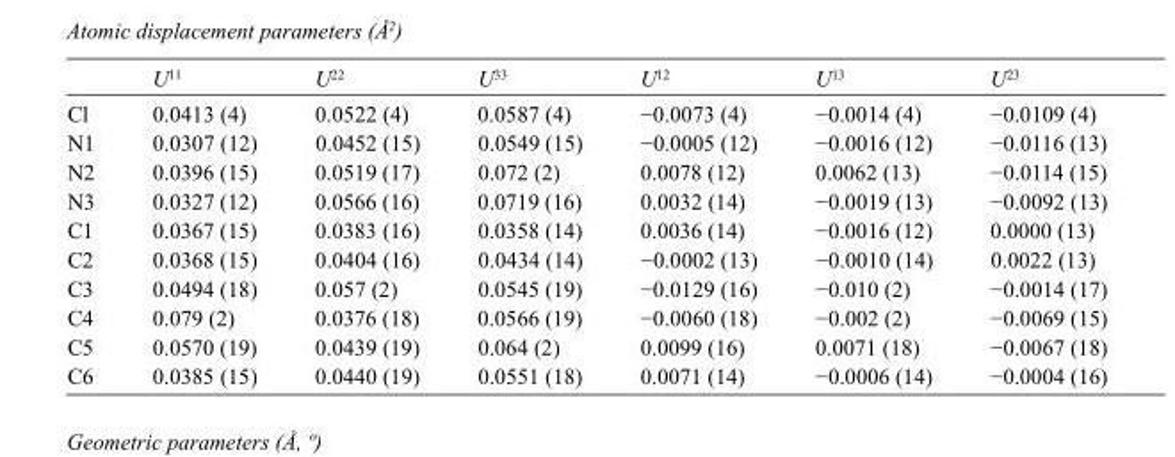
<table><thead><tr><td></td><td>U<sup>11</sup></td><td>U<sup>22</sup></td><td>U<sup>33</sup></td><td>U<sup>12</sup></td><td>U<sup>13</sup></td><td>U<sup>23</sup></td></tr></thead><tbody><tr><td>Cl</td><td>0.0413 (4)</td><td>0.0522 (4)</td><td>0.0587 (4)</td><td>−0.0073 (4)</td><td>−0.0014 (4)</td><td>−0.0109 (4)</td></tr><tr><td>N1</td><td>0.0307 (12)</td><td>0.0452 (15)</td><td>0.0549 (15)</td><td>−0.0005 (12)</td><td>−0.0016 (12)</td><td>−0.0116 (13)</td></tr><tr><td>N2</td><td>0.0396 (15)</td><td>0.0519 (17)</td><td>0.072 (2)</td><td>0.0078 (12)</td><td>0.0062 (13)</td><td>−0.0114 (15)</td></tr><tr><td>N3</td><td>0.0327 (12)</td><td>0.0566 (16)</td><td>0.0719 (16)</td><td>0.0032 (14)</td><td>−0.0019 (13)</td><td>−0.0092 (13)</td></tr><tr><td>C1</td><td>0.0367 (15)</td><td>0.0383 (16)</td><td>0.0358 (14)</td><td>0.0036 (14)</td><td>−0.0016 (12)</td><td>0.0000 (13)</td></tr><tr><td>C2</td><td>0.0368 (15)</td><td>0.0404 (16)</td><td>0.0434 (14)</td><td>−0.0002 (13)</td><td>−0.0010 (14)</td><td>0.0022 (13)</td></tr><tr><td>C3</td><td>0.0494 (18)</td><td>0.057 (2)</td><td>0.0545 (19)</td><td>−0.0129 (16)</td><td>−0.010 (2)</td><td>−0.0014 (17)</td></tr><tr><td>C4</td><td>0.079 (2)</td><td>0.0376 (18)</td><td>0.0566 (19)</td><td>−0.0060 (18)</td><td>−0.002 (2)</td><td>−0.0069 (15)</td></tr><tr><td>C5</td><td>0.0570 (19)</td><td>0.0439 (19)</td><td>0.064 (2)</td><td>0.0099 (16)</td><td>0.0071 (18)</td><td>−0.0067 (18)</td></tr><tr><td>C6</td><td>0.0385 (15)</td><td>0.0440 (19)</td><td>0.0551 (18)</td><td>0.0071 (14)</td><td>−0.0006 (14)</td><td>−0.0004 (16)</td></tr></tbody></table>